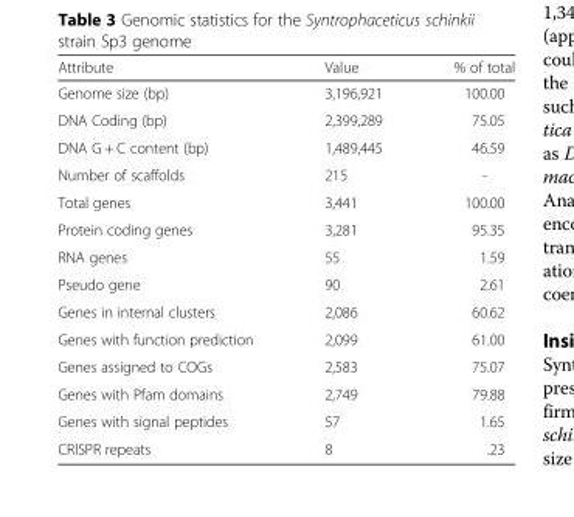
<table><thead><tr><td>Attribute</td><td>Value</td><td>% of total</td></tr></thead><tbody><tr><td>Genome size (bp)</td><td>3,196,921</td><td>100.00</td></tr><tr><td>DNA Coding (bp)</td><td>2,399,289</td><td>75.05</td></tr><tr><td>DNA G + C content (bp)</td><td>1,489,445</td><td>46.59</td></tr><tr><td>Number of scaffolds</td><td>215</td><td>-</td></tr><tr><td>Total genes</td><td>3,441</td><td>100.00</td></tr><tr><td>Protein coding genes</td><td>3,281</td><td>95.35</td></tr><tr><td>RNA genes</td><td>55</td><td>1.59</td></tr><tr><td>Pseudo gene</td><td>90</td><td>2.61</td></tr><tr><td>Genes in internal clusters</td><td>2,086</td><td>60.62</td></tr><tr><td>Genes with function prediction</td><td>2,099</td><td>61.00</td></tr><tr><td>Genes assigned to COGs</td><td>2,583</td><td>75.07</td></tr><tr><td>Genes with Pfam domains</td><td>2,749</td><td>79.88</td></tr><tr><td>Genes with signal peptides</td><td>57</td><td>1.65</td></tr><tr><td>CRISPR repeats</td><td>8</td><td>.23</td></tr></tbody></table>